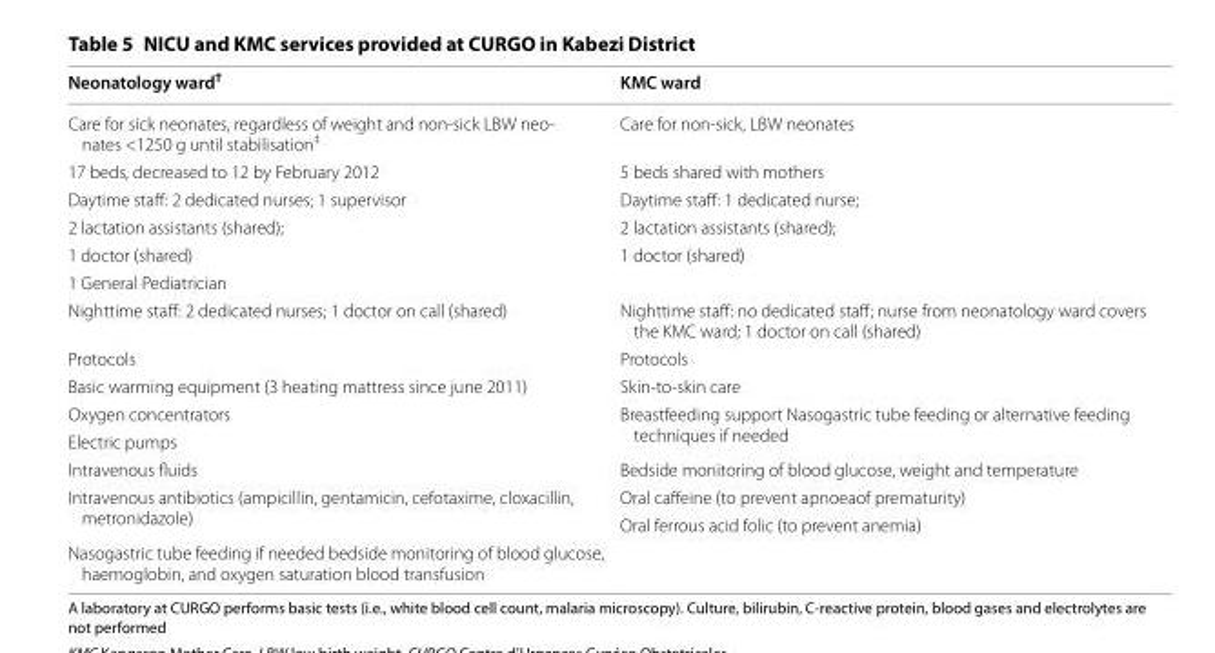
<table><thead><tr><td>Neonatology ward<sup>†</sup></td><td>KMC ward</td></tr></thead><tbody><tr><td>Care for sick neonates, regardless of weight and non-sick LBW neo- nates &lt;1250 g until stabilisation‡</td><td>Care for non-sick, LBW neonates</td></tr><tr><td>17 beds, decreased to 12 by February 2012</td><td>5 beds shared with mothers</td></tr><tr><td>Daytime staff: 2 dedicated nurses; 1 supervisor</td><td>Daytime staff: 1 dedicated nurse;</td></tr><tr><td>2 lactation assistants (shared);</td><td>2 lactation assistants (shared);</td></tr><tr><td>1 doctor (shared)</td><td>1 doctor (shared)</td></tr><tr><td colspan="2">1 General Pediatrician</td></tr><tr><td>Nighttime staff: 2 dedicated nurses; 1 doctor on call (shared)</td><td>Nighttime staff: no dedicated staff; nurse from neonatology ward covers the KMC ward; 1 doctor on call (shared)</td></tr><tr><td>Protocols</td><td>Protocols</td></tr><tr><td>Basic warming equipment (3 heating mattress since june 2011)</td><td>Skin-to-skin care</td></tr><tr><td>Oxygen concentrators</td><td rowspan="2">Breastfeeding support Nasogastric tube feeding or alternative feeding techniques if needed</td></tr><tr><td>Electric pumps</td></tr><tr><td>Intravenous fluids</td><td>Bedside monitoring of blood glucose, weight and temperature</td></tr><tr><td rowspan="2">Intravenous antibiotics (ampicillin, gentamicin, cefotaxime, cloxacillin, metronidazole)</td><td>Oral caffeine (to prevent apnoeaof prematurity)</td></tr><tr><td>Oral ferrous acid folic (to prevent anemia)</td></tr><tr><td>Nasogastric tube feeding if needed bedside monitoring of blood glucose, haemoglobin, and oxygen saturation blood transfusion</td><td></td></tr></tbody></table>